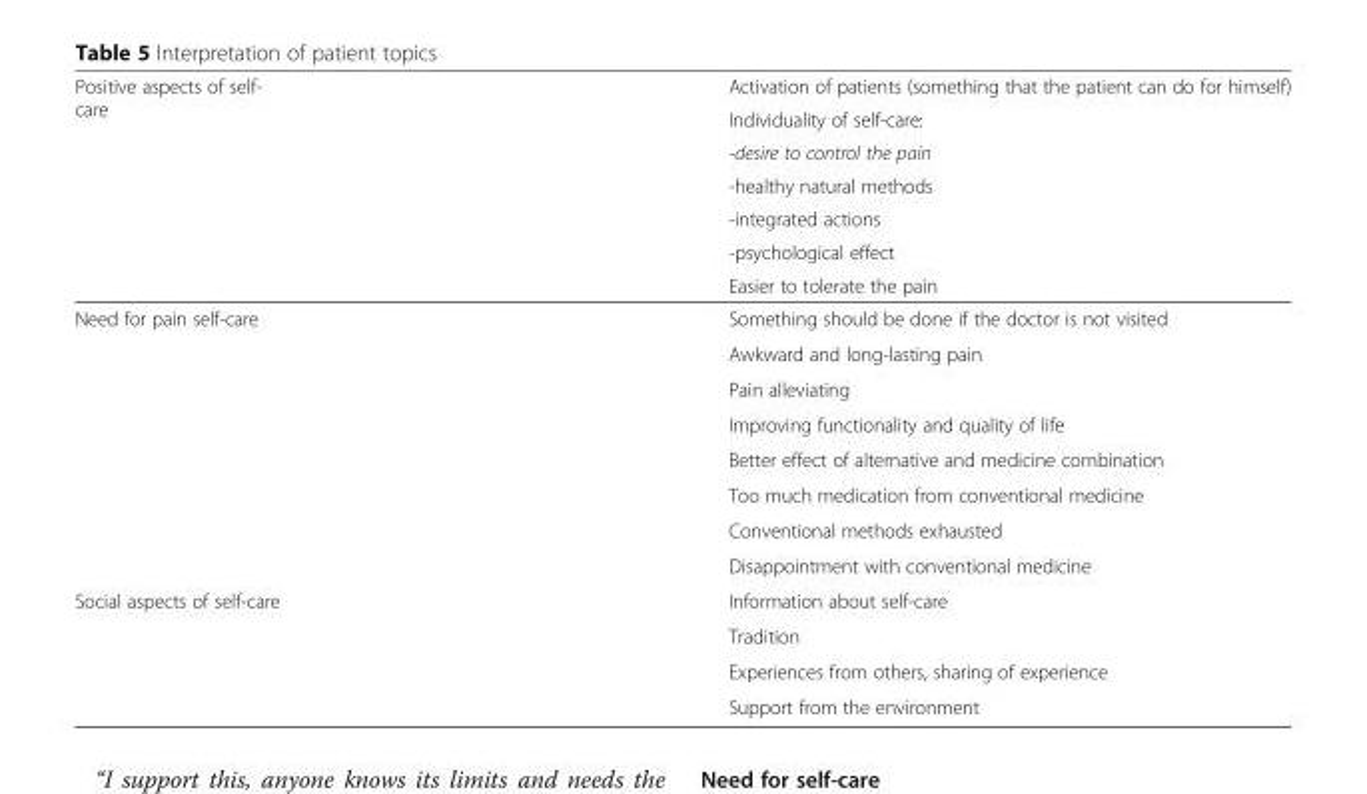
<table><thead><tr><td rowspan="7">Positive aspects of self- care</td><td rowspan="7">Activation of patients (something that the patient can do for himself) Individuality of self-care: -desire to control the pain -healthy natural methods -integrated actions -psychological effect Easier to tolerate the pain</td></tr><tr></tr><tr></tr><tr></tr><tr></tr><tr></tr><tr></tr></thead><tbody><tr><td rowspan="8">Need for pain self-care</td><td>Something should be done if the doctor is not visited</td></tr><tr><td>Awkward and long-lasting pain</td></tr><tr><td>Pain alleviating</td></tr><tr><td>Improving functionality and quality of life</td></tr><tr><td>Better effect of alternative and medicine combination</td></tr><tr><td>Too much medication from conventional medicine</td></tr><tr><td>Conventional methods exhausted</td></tr><tr><td>Disappointment with conventional medicine</td></tr><tr><td rowspan="4">Social aspects of self-care</td><td>Information about self-care</td></tr><tr><td>Tradition</td></tr><tr><td>Experiences from others, sharing of experience</td></tr><tr><td>Support from the environment</td></tr></tbody></table>